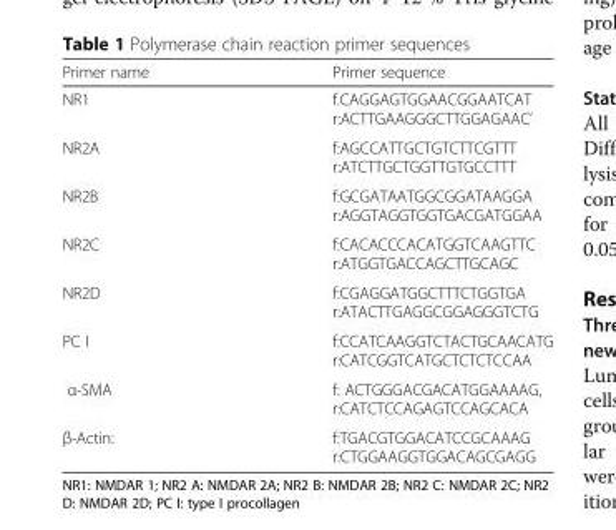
<table><thead><tr><td>Primer name</td><td>Primer sequence</td></tr></thead><tbody><tr><td>NR1</td><td>f.CAGGAGTGGAACGGAATCAT r:ACTTGAAGGGCTTGGAGAAC’</td></tr><tr><td>NR2A</td><td>f:AGCCATTGCTGTCTTCGTTT r:ATCTTGCTGGTTGTGCCTTT</td></tr><tr><td>NR2B</td><td>f:GCGATAATGGCGGATAAGGA r:AGGTAGGTGGTGACGATGGAA</td></tr><tr><td>NR2C</td><td>f:CACACCCACATGGTCAAGTTC r:ATGGTGACCAGCTTGCAGC</td></tr><tr><td>NR2D</td><td>f:CGAGGATGGCTTTCTGGTGA r:ATACTTGAGGCGGAGGGTCTG</td></tr><tr><td>PC I</td><td>f:CCATCAAGGTCTACTGCAACATG r:CATCGGTCATGCTCTCTCCAA</td></tr><tr><td>α-SMA</td><td>f: ACTGGGACGACATGGAAAAG, r:CATCTCCAGAGTCCAGCACA</td></tr><tr><td>β-Actin:</td><td>f:TGACGTGGACATCCGCAAAG r:CTGGAAGGTGGACAGCGAGG</td></tr></tbody></table>